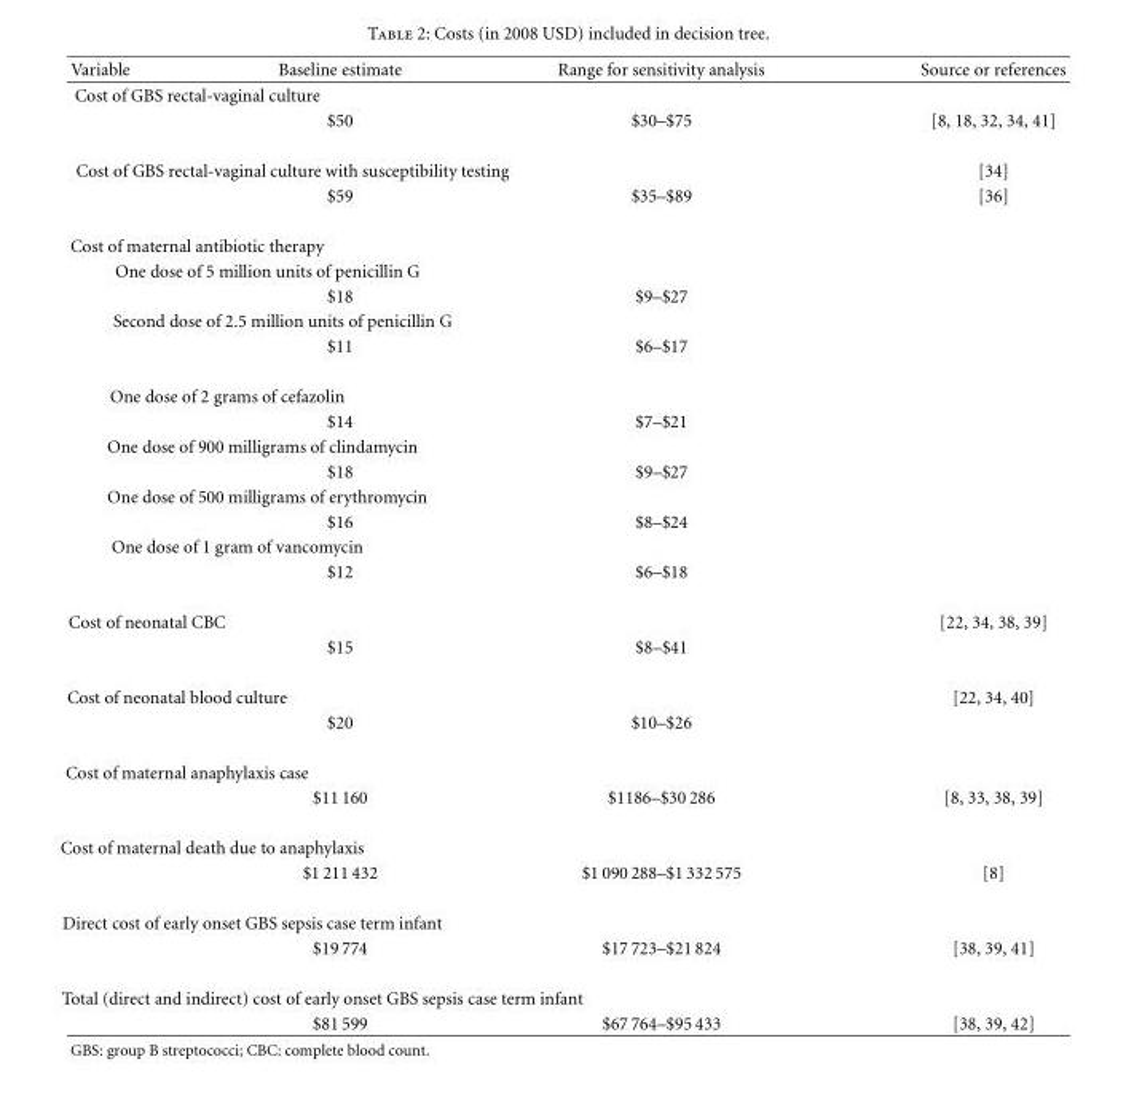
<table><thead><tr><td>Variable</td><td>Baseline estimate</td><td>Range for sensitivity analysis</td><td>Source or references</td></tr></thead><tbody><tr><td colspan="4">Cost of GBS rectal-vaginal culture</td></tr><tr><td></td><td>$50</td><td>$30–$75</td><td>[8, 18, 32, 34, 41]</td></tr><tr><td colspan="3">Cost of GBS rectal-vaginal culture with susceptibility testing</td><td>[34]</td></tr><tr><td></td><td>$59</td><td>$35–$89</td><td>[36]</td></tr><tr><td colspan="4">Cost of maternal antibiotic therapy</td></tr><tr><td colspan="4">One dose of 5 million units of penicillin G</td></tr><tr><td></td><td>$18</td><td>$9–$27</td><td></td></tr><tr><td colspan="4">Second dose of 2.5 million units of penicillin G</td></tr><tr><td></td><td>$11</td><td>$6–$17</td><td></td></tr><tr><td colspan="4">One dose of 2 grams of cefazolin</td></tr><tr><td></td><td>$14</td><td>$7–$21</td><td></td></tr><tr><td colspan="4">One dose of 900 milligrams of clindamycin</td></tr><tr><td></td><td>$18</td><td>$9–$27</td><td></td></tr><tr><td colspan="4">One dose of 500 milligrams of erythromycin</td></tr><tr><td></td><td>$16</td><td>$8–$24</td><td></td></tr><tr><td colspan="4">One dose of 1 gram of vancomycin</td></tr><tr><td></td><td>$12</td><td>$6–$18</td><td></td></tr><tr><td colspan="3">Cost of neonatal CBC</td><td>[22, 34, 38, 39]</td></tr><tr><td></td><td>$15</td><td>$8–$41</td><td></td></tr><tr><td colspan="3">Cost of neonatal blood culture</td><td>[22, 34, 40]</td></tr><tr><td></td><td>$20</td><td>$10–$26</td><td></td></tr><tr><td colspan="4">Cost of maternal anaphylaxis case</td></tr><tr><td></td><td>$11 160</td><td>$1186–$30 286</td><td>[8, 33, 38, 39]</td></tr><tr><td colspan="4">Cost of maternal death due to anaphylaxis</td></tr><tr><td></td><td>$1 211 432</td><td>$1 090 288–$1 332 575</td><td>[8]</td></tr><tr><td colspan="4">Direct cost of early onset GBS sepsis case term infant</td></tr><tr><td></td><td>$19 774</td><td>$17 723–$21 824</td><td>[38, 39, 41]</td></tr><tr><td colspan="4">Total (direct and indirect) cost of early onset GBS sepsis case term infant</td></tr><tr><td></td><td>$81 599</td><td>$67 764–$95 433</td><td>[38, 39, 42]</td></tr></tbody></table>